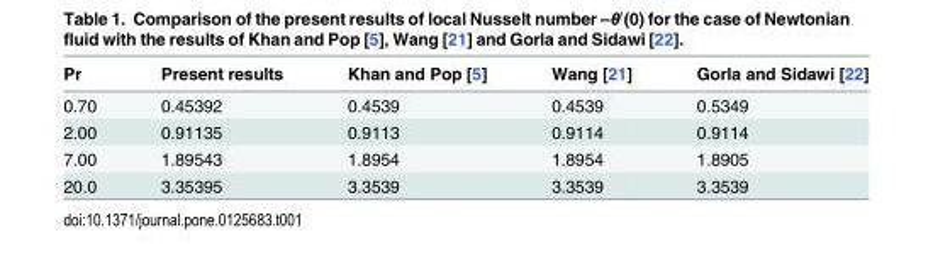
<table><thead><tr><td>Pr</td><td>Present results</td><td>Khan and Pop [5]</td><td>Wang [21]</td><td>Gorla and Sidawi [22]</td></tr></thead><tbody><tr><td>0.70</td><td>0.45392</td><td>0.4539</td><td>0.4539</td><td>0.5349</td></tr><tr><td>2.00</td><td>0.91135</td><td>0.9113</td><td>0.9114</td><td>0.9114</td></tr><tr><td>7.00</td><td>1.89543</td><td>1.8954</td><td>1.8954</td><td>1.8905</td></tr><tr><td>20.0</td><td>3.35395</td><td>3.3539</td><td>3.3539</td><td>3.3539</td></tr></tbody></table>